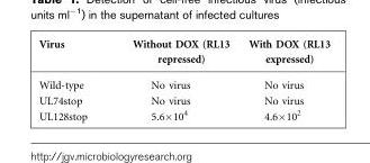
<table><thead><tr><td>Virus</td><td>Without DOX (RL13 repressed)</td><td>With DOX (RL13 expressed)</td></tr></thead><tbody><tr><td>Wild-type</td><td>No virus</td><td>No virus</td></tr><tr><td>UL74stop</td><td>No virus</td><td>No virus</td></tr><tr><td>UL128stop</td><td>5.6×10<sup>4</sup></td><td>4.6×10<sup>2</sup></td></tr></tbody></table>